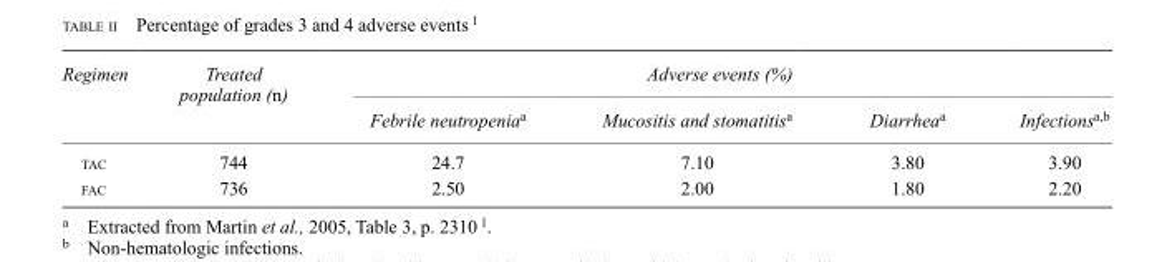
<table><thead><tr><td rowspan="2">Regimen</td><td rowspan="2">Treated population (n)</td><td colspan="4">Adverse events (%)</td></tr><tr><td>Febrile neutropenia<sup>a</sup></td><td>Mucositis and stomatitis<sup>a</sup></td><td>Diarrhea<sup>a</sup></td><td>Infections<sup>a</sup>,<sup>b</sup></td></tr></thead><tbody><tr><td>tac</td><td>744</td><td>24.7</td><td>7.10</td><td>3.80</td><td>3.90</td></tr><tr><td>fac</td><td>736</td><td>2.50</td><td>2.00</td><td>1.80</td><td>2.20</td></tr></tbody></table>